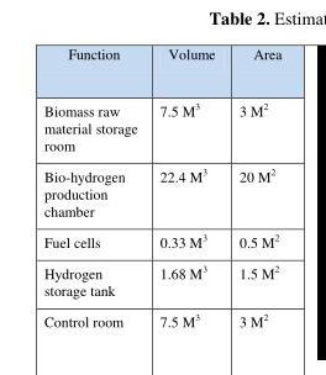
<table><thead><tr><td>Function</td><td>Volume</td><td>Area</td></tr></thead><tbody><tr><td>Biomass raw material storage room</td><td>7.5 M<sup>3</sup></td><td>3 M<sup>2</sup></td></tr><tr><td>Bio-hydrogen production chamber</td><td>22.4 M<sup>3</sup></td><td>20 M<sup>2</sup></td></tr><tr><td>Fuel cells</td><td>0.33 M<sup>3</sup></td><td>0.5 M<sup>2</sup></td></tr><tr><td>Hydrogen storage tank</td><td>1.68 M<sup>3</sup></td><td>1.5 M<sup>2</sup></td></tr><tr><td>Control room</td><td>7.5 M<sup>3</sup></td><td>3 M<sup>2</sup></td></tr></tbody></table>